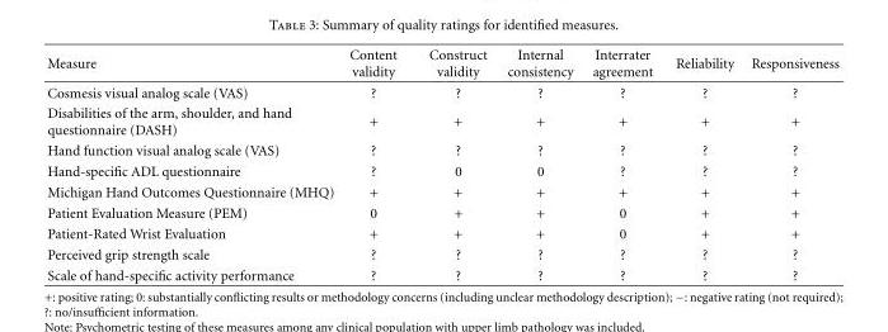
<table><thead><tr><td>Measure</td><td>Content validity</td><td>Construct validity</td><td>Internal consistency</td><td>Interrater agreement</td><td>Reliability</td><td>Responsiveness</td></tr></thead><tbody><tr><td>Cosmesis visual analog scale (VAS)</td><td>?</td><td>?</td><td>?</td><td>?</td><td>?</td><td>?</td></tr><tr><td>Disabilities of the arm, shoulder, and hand questionnaire (DASH)</td><td>+</td><td>+</td><td>+</td><td>+</td><td>+</td><td>+</td></tr><tr><td>Hand function visual analog scale (VAS)</td><td>?</td><td>?</td><td>?</td><td>?</td><td>?</td><td>?</td></tr><tr><td>Hand-specific ADL questionnaire</td><td>?</td><td>0</td><td>0</td><td>?</td><td>?</td><td>?</td></tr><tr><td>Michigan Hand Outcomes Questionnaire (MHQ)</td><td>+</td><td>+</td><td>+</td><td>+</td><td>+</td><td>+</td></tr><tr><td>Patient Evaluation Measure (PEM)</td><td>0</td><td>+</td><td>+</td><td>0</td><td>+</td><td>+</td></tr><tr><td>Patient-Rated Wrist Evaluation</td><td>+</td><td>+</td><td>+</td><td>0</td><td>+</td><td>+</td></tr><tr><td>Perceived grip strength scale</td><td>?</td><td>?</td><td>?</td><td>?</td><td>?</td><td>?</td></tr><tr><td>Scale of hand-specific activity performance</td><td>?</td><td>?</td><td>?</td><td>?</td><td>?</td><td>?</td></tr></tbody></table>